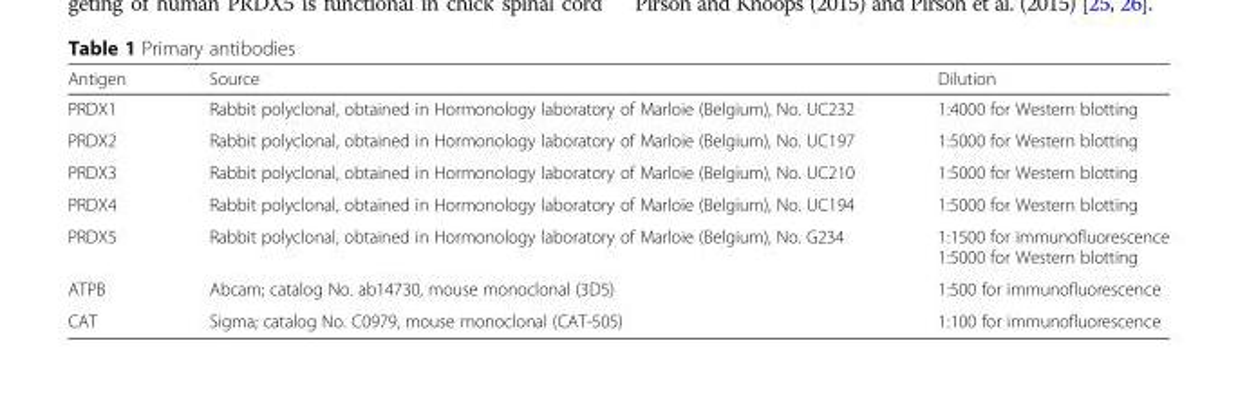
<table><thead><tr><td>Antigen</td><td>Source</td><td>Dilution</td></tr></thead><tbody><tr><td>PRDX1</td><td>Rabbit polyclonal, obtained in Hormonology laboratory of Marloie (Belgium), No. UC232</td><td>1:4000 for Western blotting</td></tr><tr><td>PRDX2</td><td>Rabbit polyclonal, obtained in Hormonology laboratory of Marloie (Belgium), No. UC197</td><td>1:5000 for Western blotting</td></tr><tr><td>PRDX3</td><td>Rabbit polyclonal, obtained in Hormonology laboratory of Marloie (Belgium), No. UC210</td><td>1:5000 for Western blotting</td></tr><tr><td>PRDX4</td><td>Rabbit polyclonal, obtained in Hormonology laboratory of Marloie (Belgium), No. UC194</td><td>1:5000 for Western blotting</td></tr><tr><td>PRDX5</td><td>Rabbit polyclonal, obtained in Hormonology laboratory of Marloie (Belgium), No. G234</td><td>1:1500 for immunofluorescence 1:5000 for Western blotting</td></tr><tr><td>ATPB</td><td>Abcam; catalog No. ab14730, mouse monoclonal (3D5)</td><td>1:500 for immunofluorescence</td></tr><tr><td>CAT</td><td>Sigma; catalog No. C0979, mouse monoclonal (CAT-505)</td><td>1:100 for immunofluorescence</td></tr></tbody></table>